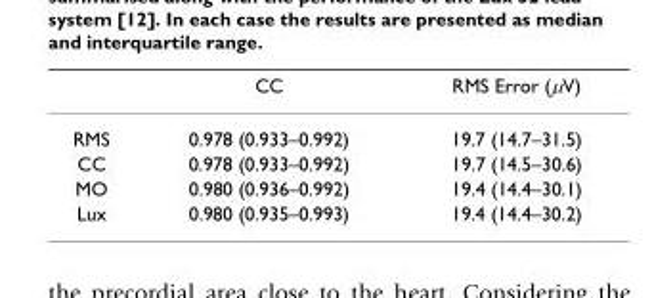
<table><thead><tr><td></td><td>CC</td><td>RMS Error (μV)</td></tr></thead><tbody><tr><td>RMS</td><td>0.978 (0.933–0.992)</td><td>19.7 (14.7–31.5)</td></tr><tr><td>CC</td><td>0.978 (0.933–0.992)</td><td>19.7 (14.5–30.6)</td></tr><tr><td>MO</td><td>0.980 (0.936–0.992)</td><td>19.4 (14.4–30.1)</td></tr><tr><td>Lux</td><td>0.980 (0.935–0.993)</td><td>19.4 (14.4–30.2)</td></tr></tbody></table>